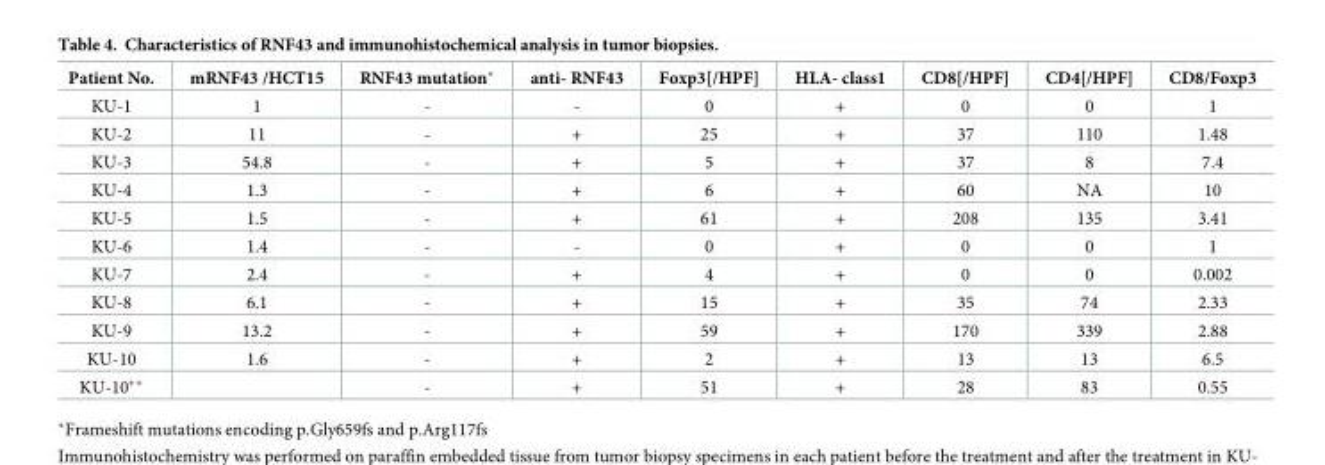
<table><thead><tr><td>Patient No.</td><td>mRNF43 /HCT15</td><td>RNF43 mutation*</td><td>anti- RNF43</td><td>Foxp3[/HPF]</td><td>HLA- class1</td><td>CD8[/HPF]</td><td>CD4[/HPF]</td><td>CD8/Foxp3</td></tr></thead><tbody><tr><td>KU-1</td><td>1</td><td>-</td><td>-</td><td>0</td><td>+</td><td>0</td><td>0</td><td>1</td></tr><tr><td>KU-2</td><td>11</td><td>-</td><td>+</td><td>25</td><td>+</td><td>37</td><td>110</td><td>1.48</td></tr><tr><td>KU-3</td><td>54.8</td><td>-</td><td>+</td><td>5</td><td>+</td><td>37</td><td>8</td><td>7.4</td></tr><tr><td>KU-4</td><td>1.3</td><td>-</td><td>+</td><td>6</td><td>+</td><td>60</td><td>NA</td><td>10</td></tr><tr><td>KU-5</td><td>1.5</td><td>-</td><td>+</td><td>61</td><td>+</td><td>208</td><td>135</td><td>3.41</td></tr><tr><td>KU-6</td><td>1.4</td><td>-</td><td>-</td><td>0</td><td>+</td><td>0</td><td>0</td><td>1</td></tr><tr><td>KU-7</td><td>2.4</td><td>-</td><td>+</td><td>4</td><td>+</td><td>0</td><td>0</td><td>0.002</td></tr><tr><td>KU-8</td><td>6.1</td><td>-</td><td>+</td><td>15</td><td>+</td><td>35</td><td>74</td><td>2.33</td></tr><tr><td>KU-9</td><td>13.2</td><td>-</td><td>+</td><td>59</td><td>+</td><td>170</td><td>339</td><td>2.88</td></tr><tr><td>KU-10</td><td>1.6</td><td>-</td><td>+</td><td>2</td><td>+</td><td>13</td><td>13</td><td>6.5</td></tr><tr><td>KU-10**</td><td></td><td>-</td><td>+</td><td>51</td><td>+</td><td>28</td><td>83</td><td>0.55</td></tr></tbody></table>